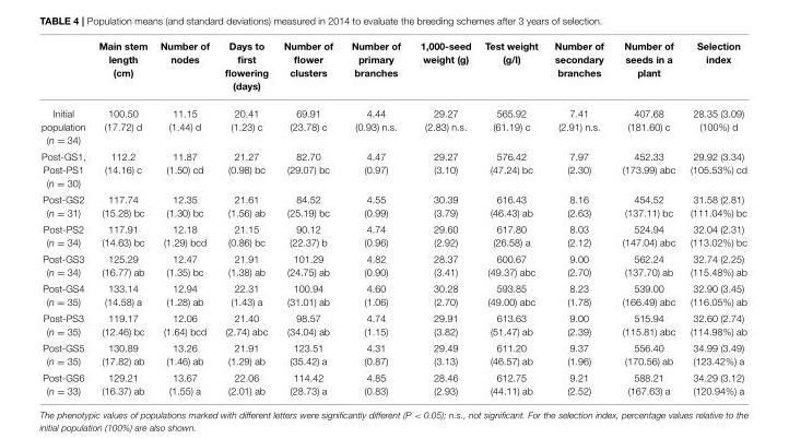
<table><thead><tr><td></td><td>Main stem length (cm)</td><td>Number of nodes</td><td>Days to first flowering (days)</td><td>Number of flower clusters</td><td>Number of primary branches</td><td>1,000-seed weight (g)</td><td>Test weight (g/l)</td><td>Number of secondary branches</td><td>Number of seeds in a plant</td><td>Selection index</td></tr></thead><tbody><tr><td>Initial population (n = 34)</td><td>100.50 (17.72) d</td><td>11.15 (1.44) d</td><td>20.41 (1.23) c</td><td>69.91 (23.78) c</td><td>4.44 (0.93) n.s.</td><td>29.27 (2.83) n.s.</td><td>565.92 (61.19) c</td><td>7.41 (2.91) n.s.</td><td>407.68 (181.60) c</td><td>28.35 (3.09) (100%) d</td></tr><tr><td>Post-GS1, Post-PS1 (n = 30)</td><td>112.2 (14.16) c</td><td>11.87 (1.50) cd</td><td>21.27 (0.98) bc</td><td>82.70 (29.07) bc</td><td>4.47 (0.97)</td><td>29.27 (3.10)</td><td>576.42 (47.24) bc</td><td>7.97 (2.30)</td><td>452.33 (173.99) abc</td><td>29.92 (3.34) (105.53%) cd</td></tr><tr><td>Post-GS2 (n = 31)</td><td>117.74 (15.28) bc</td><td>12.35 (1.30) bc</td><td>21.61 (1.56) ab</td><td>84.52 (25.19) bc</td><td>4.55 (0.99)</td><td>30.39 (3.79)</td><td>616.43 (46.43) ab</td><td>8.16 (2.63)</td><td>454.52 (137.11) bc</td><td>31.58 (2.81) (111.04%) bc</td></tr><tr><td>Post-PS2 (n = 34)</td><td>117.91 (14.63) bc</td><td>12.18 (1.29) bcd</td><td>21.15 (0.86) bc</td><td>90.12 (22.37) b</td><td>4.74 (0.96)</td><td>29.60 (2.92)</td><td>617.80 (26.58) a</td><td>8.03 (2.12)</td><td>524.94 (147.04) abc</td><td>32.04 (2.31) (113.02%) bc</td></tr><tr><td>Post-GS3 (n = 34)</td><td>125.29 (16.77) ab</td><td>12.47 (1.35) bc</td><td>21.91 (1.38) ab</td><td>101.29 (24.75) ab</td><td>4.82 (0.90)</td><td>28.37 (3.41)</td><td>600.67 (49.37) abc</td><td>9.00 (2.70)</td><td>562.24 (137.70) ab</td><td>32.74 (2.25) (115.48%) ab</td></tr><tr><td>Post-GS4 (n = 35)</td><td>133.14 (14.58) a</td><td>12.94 (1.28) ab</td><td>22.31 (1.43) a</td><td>100.94 (31.01) ab</td><td>4.60 (1.06)</td><td>30.28 (2.70)</td><td>593.85 (49.00) abc</td><td>8.23 (1.78)</td><td>539.00 (166.49) abc</td><td>32.90 (3.45) (116.05%) ab</td></tr><tr><td>Post-PS3 (n = 35)</td><td>119.17 (12.46) bc</td><td>12.06 (1.64) bcd</td><td>21.40 (2.74) abc</td><td>98.57 (34.04) ab</td><td>4.74 (1.15)</td><td>29.91 (3.82)</td><td>613.63 (51.47) ab</td><td>9.00 (2.39)</td><td>515.94 (115.81) abc</td><td>32.60 (2.74) (114.98%) ab</td></tr><tr><td>Post-GS5 (n = 35)</td><td>130.89 (17.82) ab</td><td>13.26 (1.46) ab</td><td>21.91 (1.29) ab</td><td>123.51 (35.42) a</td><td>4.31 (0.87)</td><td>29.49 (3.13)</td><td>611.20 (46.57) ab</td><td>9.37 (1.96)</td><td>556.40 (170.56) ab</td><td>34.99 (3.49) (123.42%) a</td></tr><tr><td>Post-GS6 (n = 33)</td><td>129.21 (16.37) ab</td><td>13.67 (1.55) a</td><td>22.06 (2.01) ab</td><td>114.42 (28.73) a</td><td>4.85 (0.83)</td><td>28.46 (2.93)</td><td>612.75 (44.11) ab</td><td>9.21 (2.52)</td><td>588.21 (167.63) a</td><td>34.29 (3.12) (120.94%) a</td></tr></tbody></table>